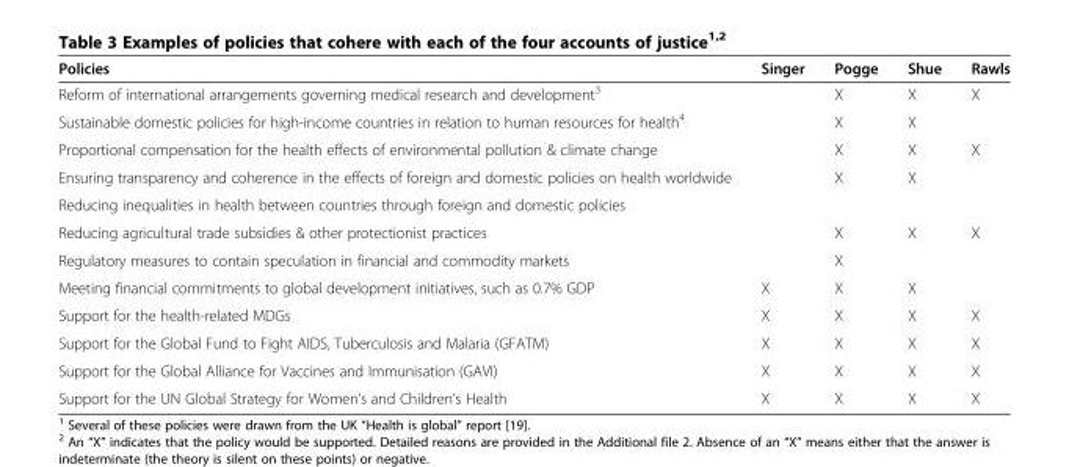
<table><thead><tr><td>Policies</td><td>Singer</td><td>Pogge</td><td>Shue</td><td>Rawls</td></tr></thead><tbody><tr><td>Reform of international arrangements governing medical research and development<sup>3</sup></td><td></td><td>X</td><td>X</td><td>X</td></tr><tr><td>Sustainable domestic policies for high-income countries in relation to human resources for health<sup>4</sup></td><td></td><td>X</td><td>X</td><td></td></tr><tr><td>Proportional compensation for the health effects of environmental pollution &amp; climate change</td><td></td><td>X</td><td>X</td><td>X</td></tr><tr><td>Ensuring transparency and coherence in the effects of foreign and domestic policies on health worldwide</td><td></td><td>X</td><td>X</td><td></td></tr><tr><td colspan="5">Reducing inequalities in health between countries through foreign and domestic policies</td></tr><tr><td>Reducing agricultural trade subsidies &amp; other protectionist practices</td><td></td><td>X</td><td>X</td><td>X</td></tr><tr><td>Regulatory measures to contain speculation in financial and commodity markets</td><td></td><td>X</td><td></td><td></td></tr><tr><td>Meeting financial commitments to global development initiatives, such as 0.7% GDP</td><td>X</td><td>X</td><td>X</td><td></td></tr><tr><td>Support for the health-related MDGs</td><td>X</td><td>X</td><td>X</td><td>X</td></tr><tr><td>Support for the Global Fund to Fight AIDS, Tuberculosis and Malaria (GFATM)</td><td>X</td><td>X</td><td>X</td><td>X</td></tr><tr><td>Support for the Global Alliance for Vaccines and Immunisation (GAVI)</td><td>X</td><td>X</td><td>X</td><td>X</td></tr><tr><td>Support for the UN Global Strategy for Women’s and Children’s Health</td><td>X</td><td>X</td><td>X</td><td>X</td></tr></tbody></table>